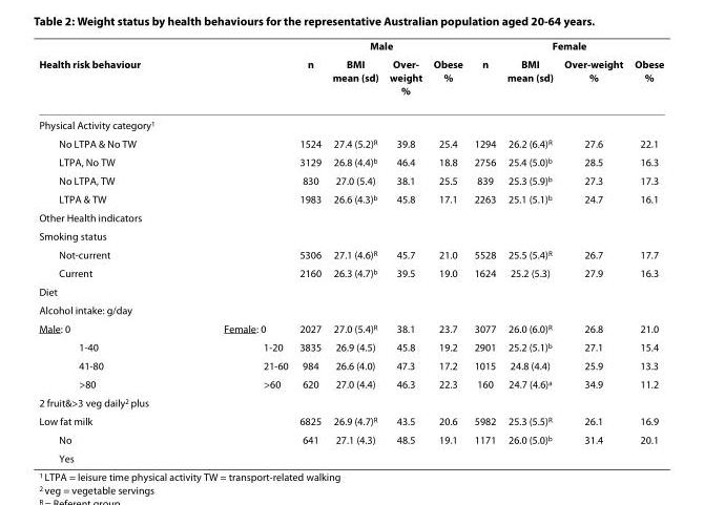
<table><thead><tr><td></td><td></td><td colspan="4">Male</td><td colspan="4">Female</td></tr><tr><td colspan="2">Health risk behaviour</td><td>n</td><td>BMI mean (sd)</td><td>Over- weight %</td><td>Obese %</td><td>n</td><td>BMI mean (sd)</td><td>Over-weight %</td><td>Obese %</td></tr></thead><tbody><tr><td colspan="10">Physical Activity category<sup>1</sup></td></tr><tr><td>No LTPA &amp; No TW</td><td></td><td>1524</td><td>27.4 (5.2)<sup>R</sup></td><td>39.8</td><td>25.4</td><td>1294</td><td>26.2 (6.4)<sup>R</sup></td><td>27.6</td><td>22.1</td></tr><tr><td>LTPA, No TW</td><td></td><td>3129</td><td>26.8 (4.4)<sup>b</sup></td><td>46.4</td><td>18.8</td><td>2756</td><td>25.4 (5.0)<sup>b</sup></td><td>28.5</td><td>16.3</td></tr><tr><td>No LTPA, TW</td><td></td><td>830</td><td>27.0 (5.4)</td><td>38.1</td><td>25.5</td><td>839</td><td>25.3 (5.9)<sup>b</sup></td><td>27.3</td><td>17.3</td></tr><tr><td>LTPA &amp; TW</td><td></td><td>1983</td><td>26.6 (4.3)<sup>b</sup></td><td>45.8</td><td>17.1</td><td>2263</td><td>25.1 (5.1)<sup>b</sup></td><td>24.7</td><td>16.1</td></tr><tr><td colspan="10">Other Health indicators</td></tr><tr><td colspan="10">Smoking status</td></tr><tr><td>Not-current</td><td></td><td>5306</td><td>27.1 (4.6)<sup>R</sup></td><td>45.7</td><td>21.0</td><td>5528</td><td>25.5 (5.4)<sup>R</sup></td><td>26.7</td><td>17.7</td></tr><tr><td>Current</td><td></td><td>2160</td><td>26.3 (4.7)<sup>b</sup></td><td>39.5</td><td>19.0</td><td>1624</td><td>25.2 (5.3)</td><td>27.9</td><td>16.3</td></tr><tr><td colspan="10">Diet</td></tr><tr><td colspan="10">Alcohol intake: g/day</td></tr><tr><td>Male: 0</td><td>Female: 0</td><td>2027</td><td>27.0 (5.4)<sup>R</sup></td><td>38.1</td><td>23.7</td><td>3077</td><td>26.0 (6.0)<sup>R</sup></td><td>26.8</td><td>21.0</td></tr><tr><td>1-40</td><td>1-20</td><td>3835</td><td>26.9 (4.5)</td><td>45.8</td><td>19.2</td><td>2901</td><td>25.2 (5.1)<sup>b</sup></td><td>27.1</td><td>15.4</td></tr><tr><td>41-80</td><td>21-60</td><td>984</td><td>26.6 (4.0)</td><td>47.3</td><td>17.2</td><td>1015</td><td>24.8 (4.4)</td><td>25.9</td><td>13.3</td></tr><tr><td>&gt;80</td><td>&gt;60</td><td>620</td><td>27.0 (4.4)</td><td>46.3</td><td>22.3</td><td>160</td><td>24.7 (4.6)<sup>a</sup></td><td>34.9</td><td>11.2</td></tr><tr><td colspan="10">2 fruit&amp;&gt;3 veg daily<sup>2</sup> plus</td></tr><tr><td>Low fat milk</td><td></td><td>6825</td><td>26.9 (4.7)<sup>R</sup></td><td>43.5</td><td>20.6</td><td>5982</td><td>25.3 (5.5)<sup>R</sup></td><td>26.1</td><td>16.9</td></tr><tr><td>No</td><td></td><td>641</td><td>27.1 (4.3)</td><td>48.5</td><td>19.1</td><td>1171</td><td>26.0 (5.0)<sup>b</sup></td><td>31.4</td><td>20.1</td></tr><tr><td>Yes</td><td></td><td></td><td></td><td></td><td></td><td></td><td></td><td></td><td></td></tr></tbody></table>